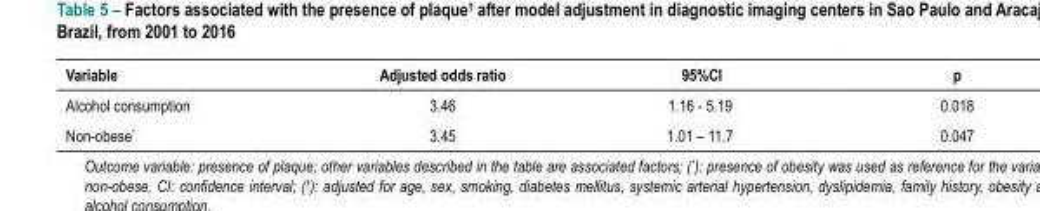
<table><thead><tr><td>Variable</td><td>Adjusted odds ratio</td><td>95%CI</td><td>p</td></tr></thead><tbody><tr><td>Alcohol consumption</td><td>3.46</td><td>1.16 - 5.19</td><td>0.018</td></tr><tr><td>Non-obese*</td><td>3.45</td><td>1.01 – 11.7</td><td>0.047</td></tr></tbody></table>